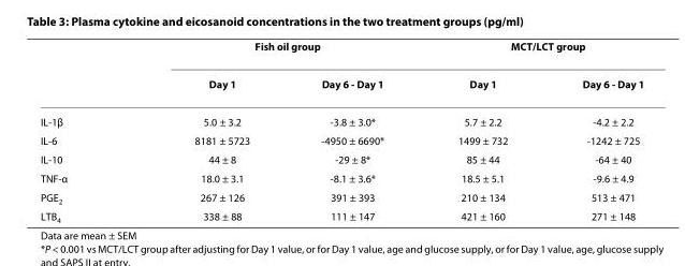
<table><thead><tr><td rowspan="2"></td><td colspan="2">Fish oil group</td><td colspan="2">MCT/LCT group</td></tr><tr><td>Day 1</td><td>Day 6 - Day 1</td><td>Day 1</td><td>Day 6 - Day 1</td></tr></thead><tbody><tr><td>IL-1β</td><td>5.0 ± 3.2</td><td>-3.8 ± 3.0*</td><td>5.7 ± 2.2</td><td>-4.2 ± 2.2</td></tr><tr><td>IL-6</td><td>8181 ± 5723</td><td>-4950 ± 6690*</td><td>1499 ± 732</td><td>-1242 ± 725</td></tr><tr><td>IL-10</td><td>44 ± 8</td><td>-29 ± 8*</td><td>85 ± 44</td><td>-64 ± 40</td></tr><tr><td>TNF-α</td><td>18.0 ± 3.1</td><td>-8.1 ± 3.6*</td><td>18.5 ± 5.1</td><td>-9.6 ± 4.9</td></tr><tr><td>PGE<sub>2</sub></td><td>267 ± 126</td><td>391 ± 393</td><td>210 ± 134</td><td>513 ± 471</td></tr><tr><td>LTB<sub>4</sub></td><td>338 ± 88</td><td>111 ± 147</td><td>421 ± 160</td><td>271 ± 148</td></tr></tbody></table>